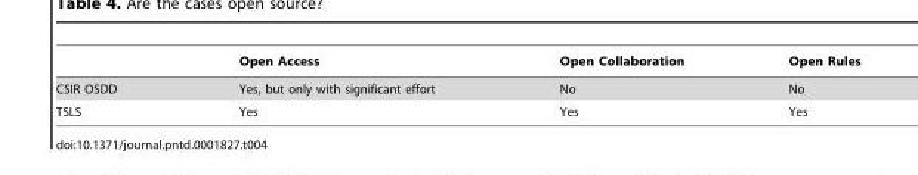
<table><thead><tr><td></td><td>Open Access</td><td>Open Collaboration</td><td>Open Rules</td></tr></thead><tbody><tr><td>CSIR OSDD</td><td>Yes, but only with significant effort</td><td>No</td><td>No</td></tr><tr><td>TSLS</td><td>Yes</td><td>Yes</td><td>Yes</td></tr></tbody></table>